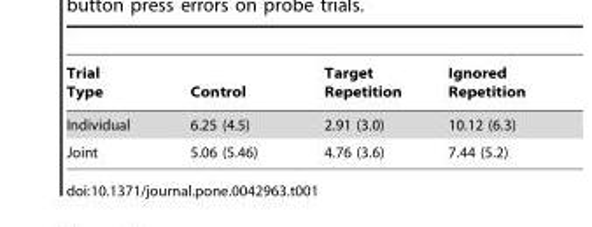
<table><thead><tr><td>Trial Type</td><td>Control</td><td>Target Repetition</td><td>Ignored Repetition</td></tr></thead><tbody><tr><td>Individual</td><td>6.25 (4.5)</td><td>2.91 (3.0)</td><td>10.12 (6.3)</td></tr><tr><td>Joint</td><td>5.06 (5.46)</td><td>4.76 (3.6)</td><td>7.44 (5.2)</td></tr></tbody></table>